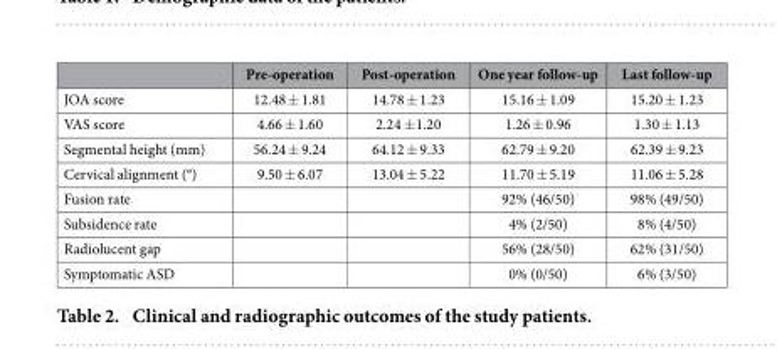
<table><thead><tr><td></td><td>Pre-operation</td><td>Post-operation</td><td>One year follow-up</td><td>Last follow-up</td></tr></thead><tbody><tr><td>JOA score</td><td>12.48 ± 1.81</td><td>14.78 ± 1.23</td><td>15.16 ± 1.09</td><td>15.20 ± 1.23</td></tr><tr><td>VAS score</td><td>4.66 ± 1.60</td><td>2.24 ± 1.20</td><td>1.26 ± 0.96</td><td>1.30 ± 1.13</td></tr><tr><td>Segmental height (mm)</td><td>56.24 ± 9.24</td><td>64.12 ± 9.33</td><td>62.79 ± 9.20</td><td>62.39 ± 9.23</td></tr><tr><td>Cervical alignment (°)</td><td>9.50 ± 6.07</td><td>13.04 ± 5.22</td><td>11.70 ± 5.19</td><td>11.06 ± 5.28</td></tr><tr><td>Fusion rate</td><td></td><td></td><td>92% (46/50)</td><td>98% (49/50)</td></tr><tr><td>Subsidence rate</td><td></td><td></td><td>4% (2/50)</td><td>8% (4/50)</td></tr><tr><td>Radiolucent gap</td><td></td><td></td><td>56% (28/50)</td><td>62% (31/50)</td></tr><tr><td>Symptomatic ASD</td><td></td><td></td><td>0% (0/50)</td><td>6% (3/50)</td></tr></tbody></table>